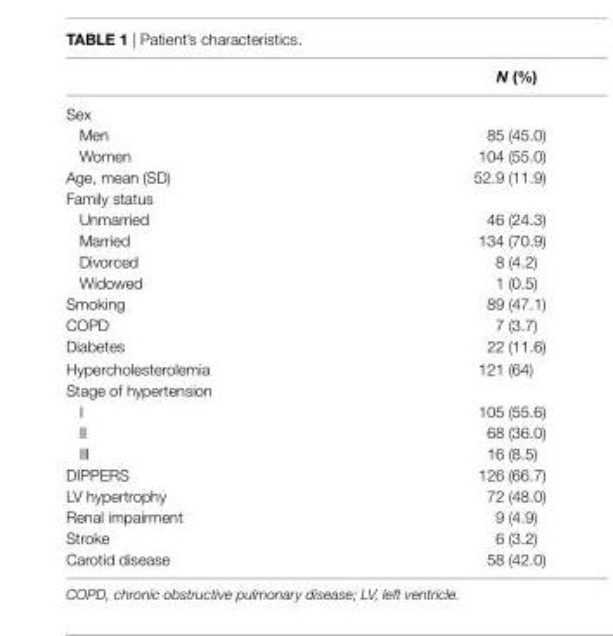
<table><thead><tr><td></td><td>N (%)</td></tr></thead><tbody><tr><td colspan="2">Sex</td></tr><tr><td>Men</td><td>85 (45.0)</td></tr><tr><td>Women</td><td>104 (55.0)</td></tr><tr><td>Age, mean (SD)</td><td>52.9 (11.9)</td></tr><tr><td colspan="2">Family status</td></tr><tr><td>Unmarried</td><td>46 (24.3)</td></tr><tr><td>Married</td><td>134 (70.9)</td></tr><tr><td>Divorced</td><td>8 (4.2)</td></tr><tr><td>Widowed</td><td>1 (0.5)</td></tr><tr><td>Smoking</td><td>89 (47.1)</td></tr><tr><td>COPD</td><td>7 (3.7)</td></tr><tr><td>Diabetes</td><td>22 (11.6)</td></tr><tr><td>Hypercholesterolemia</td><td>121 (64)</td></tr><tr><td colspan="2">Stage of hypertension</td></tr><tr><td>I</td><td>105 (55.6)</td></tr><tr><td>II</td><td>68 (36.0)</td></tr><tr><td>III</td><td>16 (8.5)</td></tr><tr><td>DIPPERS</td><td>126 (66.7)</td></tr><tr><td>LV hypertrophy</td><td>72 (48.0)</td></tr><tr><td>Renal impairment</td><td>9 (4.9)</td></tr><tr><td>Stroke</td><td>6 (3.2)</td></tr><tr><td>Carotid disease</td><td>58 (42.0)</td></tr></tbody></table>